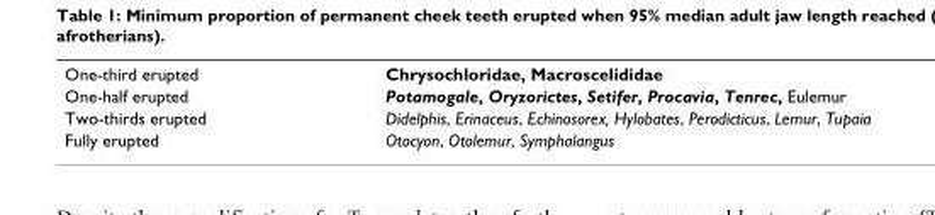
<table><tbody><tr><td>One-third erupted</td><td>Chrysochloridae, Macroscelididae</td></tr><tr><td>One-half erupted</td><td>Potamogale, Oryzorictes, Setifer, Procavia, Tenrec, Eulemur</td></tr><tr><td>Two-thirds erupted</td><td>Didelphis, Erinaceus, Echinosorex, Hylobates, Perodicticus, Lemur, Tupaia</td></tr><tr><td>Fully erupted</td><td>Otocyon, Otolemur, Symphalangus</td></tr></tbody></table>